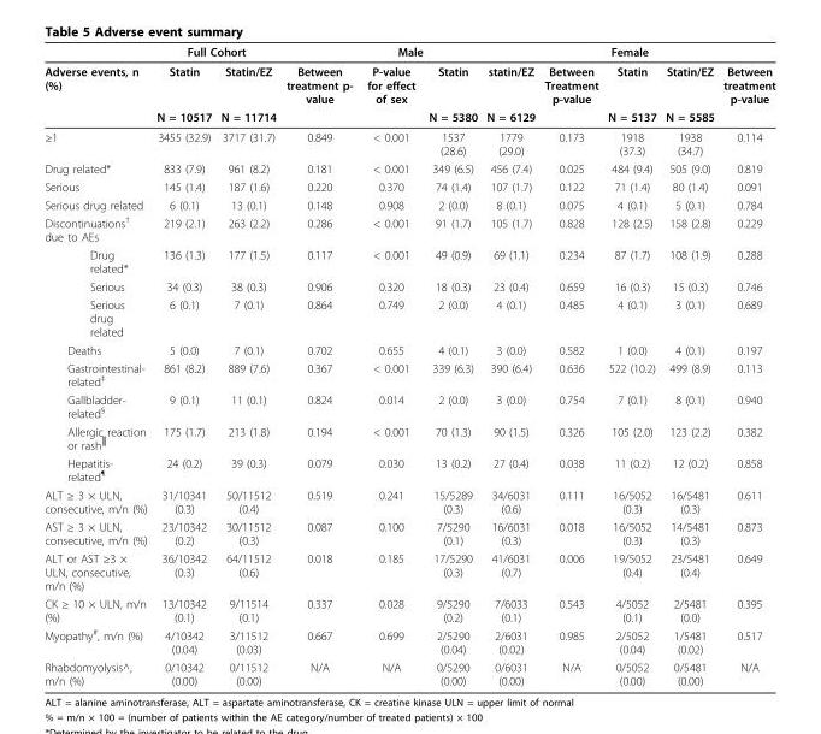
<table><thead><tr><td rowspan="2">Adverse events, n (%)</td><td colspan="2">Full Cohort</td><td colspan="4">Male</td><td colspan="3">Female</td><td rowspan="2">Between treatment p-value</td></tr><tr><td>Statin</td><td>Statin/EZ</td><td>Between treatment p- value</td><td>P-value for effect of sex</td><td>Statin</td><td>statin/EZ</td><td>Between Treatment p-value</td><td>Statin</td><td>Statin/EZ</td></tr></thead><tbody><tr><td></td><td>N = 10517</td><td>N = 11714</td><td></td><td></td><td>N = 5380</td><td>N = 6129</td><td></td><td>N = 5137</td><td>N = 5585</td><td></td></tr><tr><td>≥1</td><td>3455 (32.9)</td><td>3717 (31.7)</td><td>0.849</td><td>&lt; 0.001</td><td>1537 (28.6)</td><td>1779 (29.0)</td><td>0.173</td><td>1918 (37.3)</td><td>1938 (34.7)</td><td>0.114</td></tr><tr><td>Drug related*</td><td>833 (7.9)</td><td>961 (8.2)</td><td>0.181</td><td>&lt; 0.001</td><td>349 (6.5)</td><td>456 (7.4)</td><td>0.025</td><td>484 (9.4)</td><td>505 (9.0)</td><td>0.819</td></tr><tr><td>Serious</td><td>145 (1.4)</td><td>187 (1.6)</td><td>0.220</td><td>0.370</td><td>74 (1.4)</td><td>107 (1.7)</td><td>0.122</td><td>71 (1.4)</td><td>80 (1.4)</td><td>0.091</td></tr><tr><td>Serious drug related</td><td>6 (0.1)</td><td>13 (0.1)</td><td>0.148</td><td>0.908</td><td>2 (0.0)</td><td>8 (0.1)</td><td>0.075</td><td>4 (0.1)</td><td>5 (0.1)</td><td>0.784</td></tr><tr><td>Discontinuations<sup>†</sup> due to AEs</td><td>219 (2.1)</td><td>263 (2.2)</td><td>0.286</td><td>&lt; 0.001</td><td>91 (1.7)</td><td>105 (1.7)</td><td>0.828</td><td>128 (2.5)</td><td>158 (2.8)</td><td>0.229</td></tr><tr><td>Drug related*</td><td>136 (1.3)</td><td>177 (1.5)</td><td>0.117</td><td>&lt; 0.001</td><td>49 (0.9)</td><td>69 (1.1)</td><td>0.234</td><td>87 (1.7)</td><td>108 (1.9)</td><td>0.288</td></tr><tr><td>Serious</td><td>34 (0.3)</td><td>38 (0.3)</td><td>0.906</td><td>0.320</td><td>18 (0.3)</td><td>23 (0.4)</td><td>0.659</td><td>16 (0.3)</td><td>15 (0.3)</td><td>0.746</td></tr><tr><td>Serious drug related</td><td>6 (0.1)</td><td>7 (0.1)</td><td>0.864</td><td>0.749</td><td>2 (0.0)</td><td>4 (0.1)</td><td>0.485</td><td>4 (0.1)</td><td>3 (0.1)</td><td>0.689</td></tr><tr><td>Deaths</td><td>5 (0.0)</td><td>7 (0.1)</td><td>0.702</td><td>0.655</td><td>4 (0.1)</td><td>3 (0.0)</td><td>0.582</td><td>1 (0.0)</td><td>4 (0.1)</td><td>0.197</td></tr><tr><td>Gastrointestinal- related<sup>‡</sup></td><td>861 (8.2)</td><td>889 (7.6)</td><td>0.367</td><td>&lt; 0.001</td><td>339 (6.3)</td><td>390 (6.4)</td><td>0.636</td><td>522 (10.2)</td><td>499 (8.9)</td><td>0.113</td></tr><tr><td>Gallbladder- related<sup>§</sup></td><td>9 (0.1)</td><td>11 (0.1)</td><td>0.824</td><td>0.014</td><td>2 (0.0)</td><td>3 (0.0)</td><td>0.754</td><td>7 (0.1)</td><td>8 (0.1)</td><td>0.940</td></tr><tr><td>Allergic reaction or rash<sup>║</sup></td><td>175 (1.7)</td><td>213 (1.8)</td><td>0.194</td><td>&lt; 0.001</td><td>70 (1.3)</td><td>90 (1.5)</td><td>0.326</td><td>105 (2.0)</td><td>123 (2.2)</td><td>0.382</td></tr><tr><td>Hepatitis- related<sup>¶</sup></td><td>24 (0.2)</td><td>39 (0.3)</td><td>0.079</td><td>0.030</td><td>13 (0.2)</td><td>27 (0.4)</td><td>0.038</td><td>11 (0.2)</td><td>12 (0.2)</td><td>0.858</td></tr><tr><td>ALT ≥ 3 × ULN, consecutive, m/n (%)</td><td>31/10341 (0.3)</td><td>50/11512 (0.4)</td><td>0.519</td><td>0.241</td><td>15/5289 (0.3)</td><td>34/6031 (0.6)</td><td>0.111</td><td>16/5052 (0.3)</td><td>16/5481 (0.3)</td><td>0.611</td></tr><tr><td>AST ≥ 3 × ULN, consecutive, m/n (%)</td><td>23/10342 (0.2)</td><td>30/11512 (0.3)</td><td>0.087</td><td>0.100</td><td>7/5290 (0.1)</td><td>16/6031 (0.3)</td><td>0.018</td><td>16/5052 (0.3)</td><td>14/5481 (0.3)</td><td>0.873</td></tr><tr><td>ALT or AST ≥3 × ULN, consecutive, m/n (%)</td><td>36/10342 (0.3)</td><td>64/11512 (0.6)</td><td>0.018</td><td>0.185</td><td>17/5290 (0.3)</td><td>41/6031 (0.7)</td><td>0.006</td><td>19/5052 (0.4)</td><td>23/5481 (0.4)</td><td>0.649</td></tr><tr><td>CK ≥ 10 × ULN, m/n (%)</td><td>13/10342 (0.1)</td><td>9/11514 (0.1)</td><td>0.337</td><td>0.028</td><td>9/5290 (0.2)</td><td>7/6033 (0.1)</td><td>0.543</td><td>4/5052 (0.1)</td><td>2/5481 (0.0)</td><td>0.395</td></tr><tr><td>Myopathy<sup>#</sup>, m/n (%)</td><td>4/10342 (0.04)</td><td>3/11512 (0.03)</td><td>0.667</td><td>0.699</td><td>2/5290 (0.04)</td><td>2/6031 (0.02)</td><td>0.985</td><td>2/5052 (0.04)</td><td>1/5481 (0.02)</td><td>0.517</td></tr><tr><td>Rhabdomyolysis^, m/n (%)</td><td>0/10342 (0.00)</td><td>0/11512 (0.00)</td><td>N/A</td><td>N/A</td><td>0/5290 (0.00)</td><td>0/6031 (0.00)</td><td>N/A</td><td>0/5052 (0.00)</td><td>0/5481 (0.00)</td><td>N/A</td></tr></tbody></table>